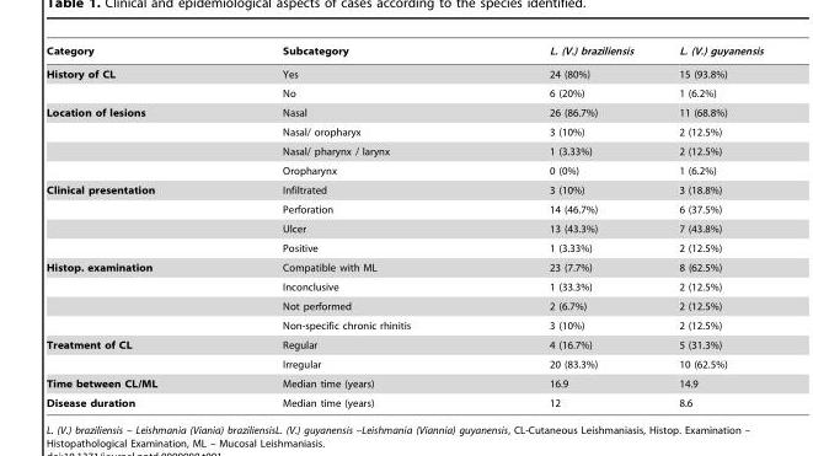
<table><thead><tr><td>Category</td><td>Subcategory</td><td>L. (V.) braziliensis</td><td>L. (V.) guyanensis</td></tr></thead><tbody><tr><td rowspan="2">History of CL</td><td>Yes</td><td>24 (80%)</td><td>15 (93.8%)</td></tr><tr><td>No</td><td>6 (20%)</td><td>1 (6.2%)</td></tr><tr><td rowspan="4">Location of lesions</td><td>Nasal</td><td>26 (86.7%)</td><td>11 (68.8%)</td></tr><tr><td>Nasal/ oropharyx</td><td>3 (10%)</td><td>2 (12.5%)</td></tr><tr><td>Nasal/ pharynx / larynx</td><td>1 (3.33%)</td><td>2 (12.5%)</td></tr><tr><td>Oropharynx</td><td>0 (0%)</td><td>1 (6.2%)</td></tr><tr><td rowspan="4">Clinical presentation</td><td>Infiltrated</td><td>3 (10%)</td><td>3 (18.8%)</td></tr><tr><td>Perforation</td><td>14 (46.7%)</td><td>6 (37.5%)</td></tr><tr><td>Ulcer</td><td>13 (43.3%)</td><td>7 (43.8%)</td></tr><tr><td>Positive</td><td>1 (3.33%)</td><td>2 (12.5%)</td></tr><tr><td rowspan="4">Histop. examination</td><td>Compatible with ML</td><td>23 (7.7%)</td><td>8 (62.5%)</td></tr><tr><td>Inconclusive</td><td>1 (33.3%)</td><td>2 (12.5%)</td></tr><tr><td>Not performed</td><td>2 (6.7%)</td><td>2 (12.5%)</td></tr><tr><td>Non-specific chronic rhinitis</td><td>3 (10%)</td><td>2 (12.5%)</td></tr><tr><td rowspan="2">Treatment of CL</td><td>Regular</td><td>4 (16.7%)</td><td>5 (31.3%)</td></tr><tr><td>Irregular</td><td>20 (83.3%)</td><td>10 (62.5%)</td></tr><tr><td>Time between CL/ML</td><td>Median time (years)</td><td>16.9</td><td>14.9</td></tr><tr><td>Disease duration</td><td>Median time (years)</td><td>12</td><td>8.6</td></tr></tbody></table>